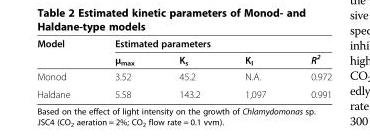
<table><thead><tr><td rowspan="2">Model</td><td colspan="4">Estimated parameters</td></tr><tr><td>μ<sub>max</sub></td><td>K<sub>s</sub></td><td>K<sub>I</sub></td><td>R<sup>2</sup></td></tr></thead><tbody><tr><td>Monod</td><td>3.52</td><td>45.2</td><td>N.A.</td><td>0.972</td></tr><tr><td>Haldane</td><td>5.58</td><td>143.2</td><td>1,097</td><td>0.991</td></tr></tbody></table>